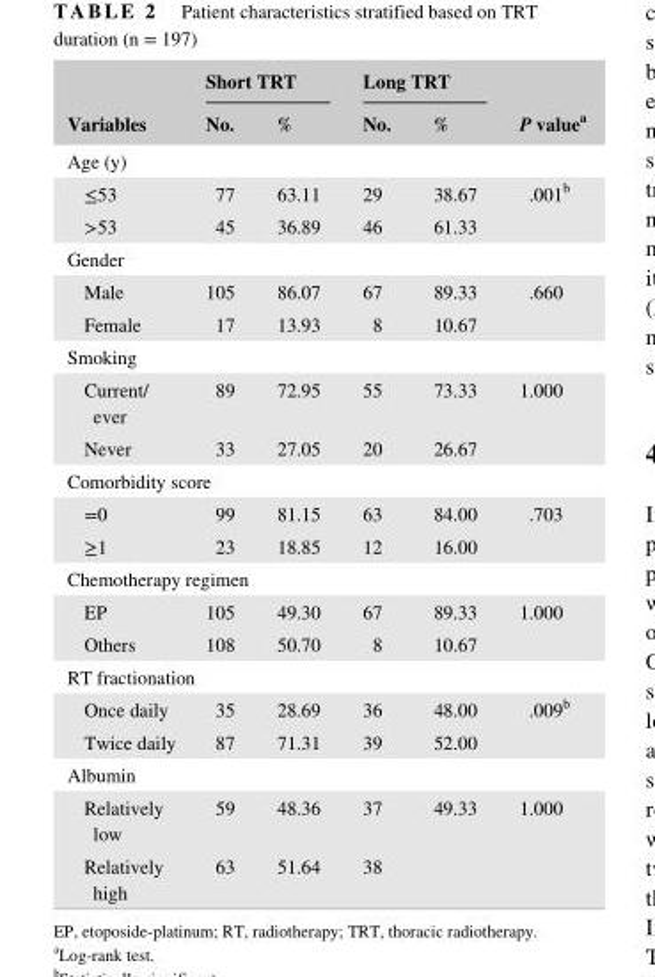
<table><thead><tr><td rowspan="2">Variables</td><td colspan="2">Short TRT</td><td colspan="2">Long TRT</td><td rowspan="2">P value<sup>a</sup></td></tr><tr><td>No.</td><td>%</td><td>No.</td><td>%</td></tr></thead><tbody><tr><td colspan="6">Age (y)</td></tr><tr><td>≤53</td><td>77</td><td>63.11</td><td>29</td><td>38.67</td><td rowspan="2">.001<sup>b</sup></td></tr><tr><td>&gt;53</td><td>45</td><td>36.89</td><td>46</td><td>61.33</td></tr><tr><td colspan="6">Gender</td></tr><tr><td>Male</td><td>105</td><td>86.07</td><td>67</td><td>89.33</td><td rowspan="2">.660</td></tr><tr><td>Female</td><td>17</td><td>13.93</td><td>8</td><td>10.67</td></tr><tr><td colspan="6">Smoking</td></tr><tr><td>Current/ ever</td><td>89</td><td>72.95</td><td>55</td><td>73.33</td><td rowspan="2">1.000</td></tr><tr><td>Never</td><td>33</td><td>27.05</td><td>20</td><td>26.67</td></tr><tr><td colspan="6">Comorbidity score</td></tr><tr><td>=0</td><td>99</td><td>81.15</td><td>63</td><td>84.00</td><td rowspan="2">.703</td></tr><tr><td>≥1</td><td>23</td><td>18.85</td><td>12</td><td>16.00</td></tr><tr><td colspan="6">Chemotherapy regimen</td></tr><tr><td>EP</td><td>105</td><td>49.30</td><td>67</td><td>89.33</td><td rowspan="2">1.000</td></tr><tr><td>Others</td><td>108</td><td>50.70</td><td>8</td><td>10.67</td></tr><tr><td colspan="6">RT fractionation</td></tr><tr><td>Once daily</td><td>35</td><td>28.69</td><td>36</td><td>48.00</td><td rowspan="2">.009<sup>b</sup></td></tr><tr><td>Twice daily</td><td>87</td><td>71.31</td><td>39</td><td>52.00</td></tr><tr><td colspan="6">Albumin</td></tr><tr><td>Relatively low</td><td>59</td><td>48.36</td><td>37</td><td>49.33</td><td rowspan="2">1.000</td></tr><tr><td>Relatively high</td><td>63</td><td>51.64</td><td>38</td><td></td></tr></tbody></table>